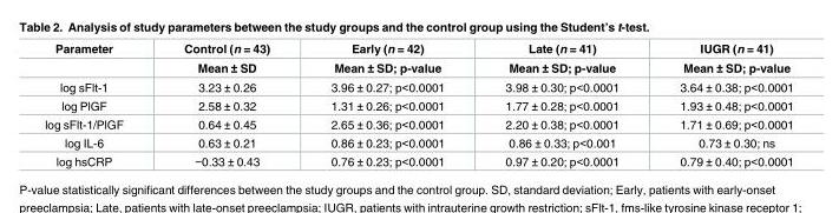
<table><thead><tr><td rowspan="2">Parameter</td><td rowspan="2">Control (n = 43) Mean ± SD</td><td rowspan="2">Early (n = 42) Mean ± SD; p-value</td><td rowspan="2">Late (n = 41) Mean ± SD; p-value</td><td rowspan="2">IUGR (n = 41) Mean ± SD; p-value</td></tr><tr></tr></thead><tbody><tr><td>log sFlt-1</td><td>3.23 ± 0.26</td><td>3.96 ± 0.27; p&lt;0.0001</td><td>3.98 ± 0.30; p&lt;0.0001</td><td>3.64 ± 0.38; p&lt;0.0001</td></tr><tr><td>log PlGF</td><td>2.58 ± 0.32</td><td>1.31 ± 0.26; p&lt;0.0001</td><td>1.77 ± 0.28; p&lt;0.0001</td><td>1.93 ± 0.48; p&lt;0.0001</td></tr><tr><td>log sFlt-1/PlGF</td><td>0.64 ± 0.45</td><td>2.65 ± 0.36; p&lt;0.0001</td><td>2.20 ± 0.38; p&lt;0.0001</td><td>1.71 ± 0.69; p&lt;0.0001</td></tr><tr><td>log IL-6</td><td>0.63 ± 0.21</td><td>0.86 ± 0.23; p&lt;0.0001</td><td>0.86 ± 0.33; p&lt;0.001</td><td>0.73 ± 0.30; ns</td></tr><tr><td>log hsCRP</td><td>−0.33 ± 0.43</td><td>0.76 ± 0.23; p&lt;0.0001</td><td>0.97 ± 0.20; p&lt;0.0001</td><td>0.79 ± 0.40; p&lt;0.0001</td></tr></tbody></table>